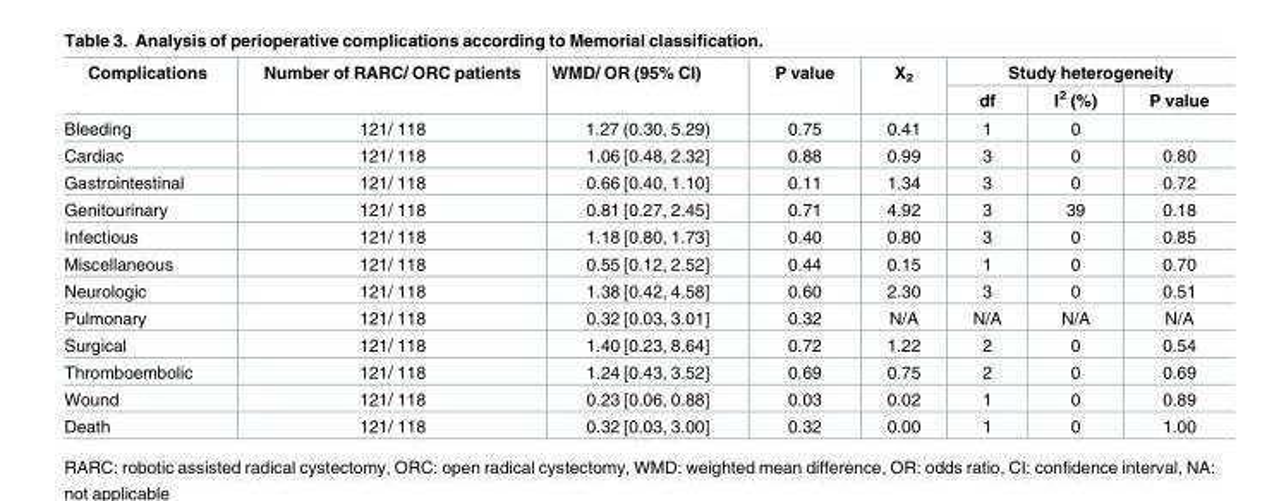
<table><thead><tr><td rowspan="2">Complications</td><td rowspan="2">Number of RARC/ ORC patients</td><td rowspan="2">WMD/ OR (95% CI)</td><td rowspan="2">P value</td><td rowspan="2">X<sub>2</sub></td><td colspan="3">Study heterogeneity</td></tr><tr><td>df</td><td>I<sup>2</sup> (%)</td><td>P value</td></tr></thead><tbody><tr><td>Bleeding</td><td>121/ 118</td><td>1.27 (0.30, 5.29)</td><td>0.75</td><td>0.41</td><td>1</td><td>0</td><td></td></tr><tr><td>Cardiac</td><td>121/ 118</td><td>1.06 [0.48, 2.32]</td><td>0.88</td><td>0.99</td><td>3</td><td>0</td><td>0.80</td></tr><tr><td>Gastrointestinal</td><td>121/ 118</td><td>0.66 [0.40, 1.10]</td><td>0.11</td><td>1.34</td><td>3</td><td>0</td><td>0.72</td></tr><tr><td>Genitourinary</td><td>121/ 118</td><td>0.81 [0.27, 2.45]</td><td>0.71</td><td>4.92</td><td>3</td><td>39</td><td>0.18</td></tr><tr><td>Infectious</td><td>121/ 118</td><td>1.18 [0.80, 1.73]</td><td>0.40</td><td>0.80</td><td>3</td><td>0</td><td>0.85</td></tr><tr><td>Miscellaneous</td><td>121/ 118</td><td>0.55 [0.12, 2.52]</td><td>0.44</td><td>0.15</td><td>1</td><td>0</td><td>0.70</td></tr><tr><td>Neurologic</td><td>121/ 118</td><td>1.38 [0.42, 4.58]</td><td>0.60</td><td>2.30</td><td>3</td><td>0</td><td>0.51</td></tr><tr><td>Pulmonary</td><td>121/ 118</td><td>0.32 [0.03, 3.01]</td><td>0.32</td><td>N/A</td><td>N/A</td><td>N/A</td><td>N/A</td></tr><tr><td>Surgical</td><td>121/ 118</td><td>1.40 [0.23, 8.64]</td><td>0.72</td><td>1.22</td><td>2</td><td>0</td><td>0.54</td></tr><tr><td>Thromboembolic</td><td>121/ 118</td><td>1.24 [0.43, 3.52]</td><td>0.69</td><td>0.75</td><td>2</td><td>0</td><td>0.69</td></tr><tr><td>Wound</td><td>121/ 118</td><td>0.23 [0.06, 0.88]</td><td>0.03</td><td>0.02</td><td>1</td><td>0</td><td>0.89</td></tr><tr><td>Death</td><td>121/ 118</td><td>0.32 [0.03, 3.00]</td><td>0.32</td><td>0.00</td><td>1</td><td>0</td><td>1.00</td></tr></tbody></table>